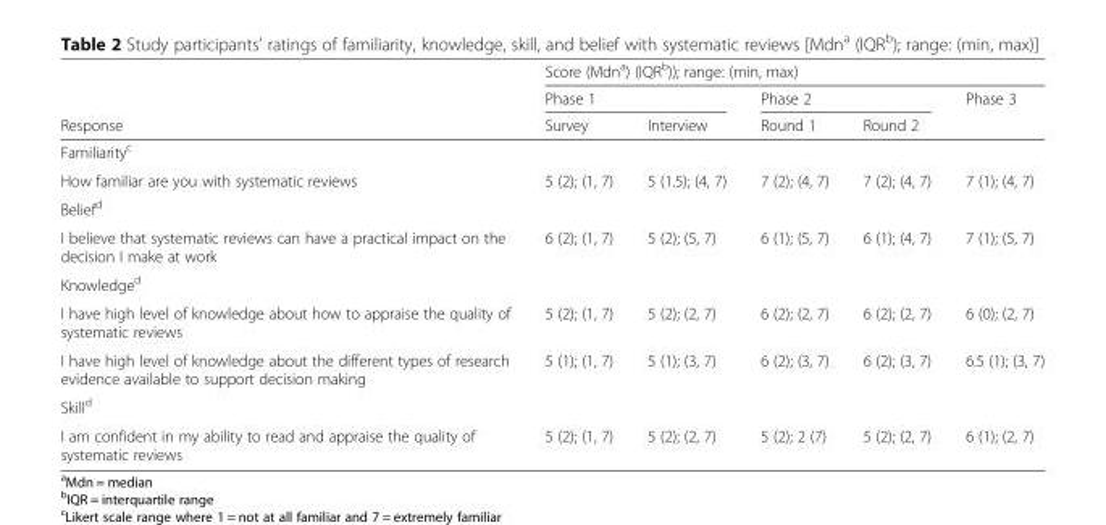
<table><thead><tr><td rowspan="3">Response</td><td colspan="5">Score (Mdn<sup>a</sup>) (IQR<sup>b</sup>)); range: (min, max)</td></tr><tr><td colspan="2">Phase 1</td><td colspan="2">Phase 2</td><td rowspan="2">Phase 3</td></tr><tr><td>Survey</td><td>Interview</td><td>Round 1</td><td>Round 2</td></tr></thead><tbody><tr><td colspan="6">Familiarity<sup>c</sup></td></tr><tr><td>How familiar are you with systematic reviews</td><td>5 (2); (1, 7)</td><td>5 (1.5); (4, 7)</td><td>7 (2); (4, 7)</td><td>7 (2); (4, 7)</td><td>7 (1); (4, 7)</td></tr><tr><td colspan="6">Belief<sup>d</sup></td></tr><tr><td>I believe that systematic reviews can have a practical impact on the decision I make at work</td><td>6 (2); (1, 7)</td><td>5 (2); (5, 7)</td><td>6 (1); (5, 7)</td><td>6 (1); (4, 7)</td><td>7 (1); (5, 7)</td></tr><tr><td colspan="6">Knowledge<sup>d</sup></td></tr><tr><td>I have high level of knowledge about how to appraise the quality of systematic reviews</td><td>5 (2); (1, 7)</td><td>5 (2); (2, 7)</td><td>6 (2); (2, 7)</td><td>6 (2); (2, 7)</td><td>6 (0); (2, 7)</td></tr><tr><td>I have high level of knowledge about the different types of research evidence available to support decision making</td><td>5 (1); (1, 7)</td><td>5 (1); (3, 7)</td><td>6 (2); (3, 7)</td><td>6 (2); (3, 7)</td><td>6.5 (1); (3, 7)</td></tr><tr><td colspan="6">Skill<sup>d</sup></td></tr><tr><td>I am confident in my ability to read and appraise the quality of systematic reviews</td><td>5 (2); (1, 7)</td><td>5 (2); (2, 7)</td><td>5 (2); 2 (7)</td><td>5 (2); (2, 7)</td><td>6 (1); (2, 7)</td></tr></tbody></table>